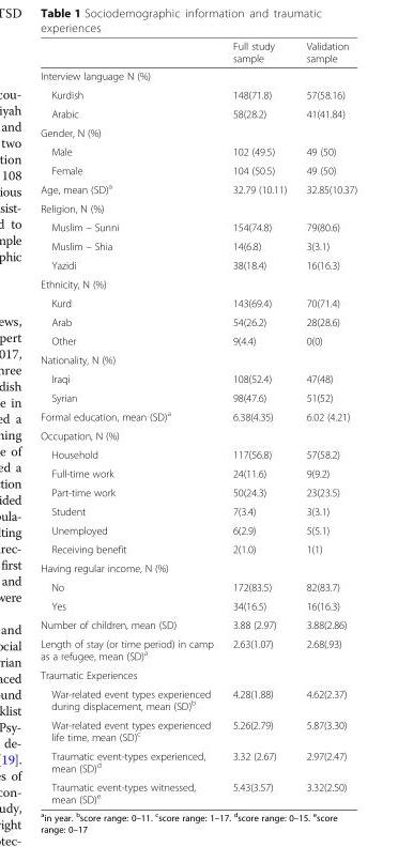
<table><thead><tr><td></td><td>Full study sample</td><td>Validation sample</td></tr></thead><tbody><tr><td colspan="3">Interview language N (%)</td></tr><tr><td>Kurdish</td><td>148(71.8)</td><td>57(58.16)</td></tr><tr><td>Arabic</td><td>58(28.2)</td><td>41(41.84)</td></tr><tr><td colspan="3">Gender, N (%)</td></tr><tr><td>Male</td><td>102 (49.5)</td><td>49 (50)</td></tr><tr><td>Female</td><td>104 (50.5)</td><td>49 (50)</td></tr><tr><td>Age, mean (SD)<sup>a</sup></td><td>32.79 (10.11)</td><td>32.85(10.37)</td></tr><tr><td colspan="3">Religion, N (%)</td></tr><tr><td>Muslim – Sunni</td><td>154(74.8)</td><td>79(80.6)</td></tr><tr><td>Muslim – Shia</td><td>14(6.8)</td><td>3(3.1)</td></tr><tr><td>Yazidi</td><td>38(18.4)</td><td>16(16.3)</td></tr><tr><td colspan="3">Ethnicity, N (%)</td></tr><tr><td>Kurd</td><td>143(69.4)</td><td>70(71.4)</td></tr><tr><td>Arab</td><td>54(26.2)</td><td>28(28.6)</td></tr><tr><td>Other</td><td>9(4.4)</td><td>0(0)</td></tr><tr><td colspan="3">Nationality, N (%)</td></tr><tr><td>Iraqi</td><td>108(52.4)</td><td>47(48)</td></tr><tr><td>Syrian</td><td>98(47.6)</td><td>51(52)</td></tr><tr><td>Formal education, mean (SD)<sup>a</sup></td><td>6.38(4.35)</td><td>6.02 (4.21)</td></tr><tr><td colspan="3">Occupation, N (%)</td></tr><tr><td>Household</td><td>117(56.8)</td><td>57(58.2)</td></tr><tr><td>Full-time work</td><td>24(11.6)</td><td>9(9.2)</td></tr><tr><td>Part-time work</td><td>50(24.3)</td><td>23(23.5)</td></tr><tr><td>Student</td><td>7(3.4)</td><td>3(3.1)</td></tr><tr><td>Unemployed</td><td>6(2.9)</td><td>5(5.1)</td></tr><tr><td>Receiving benefit</td><td>2(1.0)</td><td>1(1)</td></tr><tr><td colspan="3">Having regular income, N (%)</td></tr><tr><td>No</td><td>172(83.5)</td><td>82(83.7)</td></tr><tr><td>Yes</td><td>34(16.5)</td><td>16(16.3)</td></tr><tr><td>Number of children, mean (SD)</td><td>3.88 (2.97)</td><td>3.88(2.86)</td></tr><tr><td>Length of stay (or time period) in camp as a refugee, mean (SD)<sup>a</sup></td><td>2.63(1.07)</td><td>2.68(.93)</td></tr><tr><td colspan="3">Traumatic Experiences</td></tr><tr><td>War-related event types experienced during displacement, mean (SD)<sup>b</sup></td><td>4.28(1.88)</td><td>4.62(2.37)</td></tr><tr><td>War-related event types experienced life time, mean (SD)<sup>c</sup></td><td>5.26(2.79)</td><td>5.87(3.30)</td></tr><tr><td>Traumatic event-types experienced, mean (SD)<sup>d</sup></td><td>3.32 (2.67)</td><td>2.97(2.47)</td></tr><tr><td>Traumatic event-types witnessed, mean (SD)<sup>e</sup></td><td>5.43(3.57)</td><td>3.32(2.50)</td></tr></tbody></table>